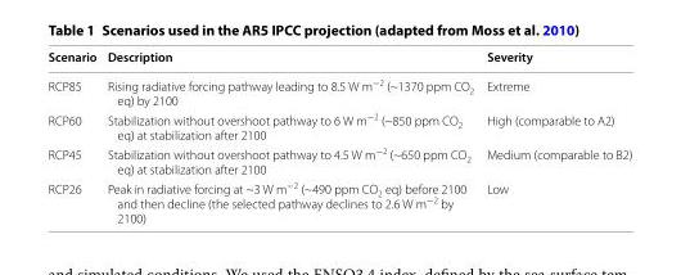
<table><thead><tr><td>Scenario</td><td>Description</td><td>Severity</td></tr></thead><tbody><tr><td>RCP85</td><td>Rising radiative forcing pathway leading to 8.5 W m<sup>−2</sup> (~1370 ppm CO<sub>2</sub> eq) by 2100</td><td>Extreme</td></tr><tr><td>RCP60</td><td>Stabilization without overshoot pathway to 6 W m<sup>−2</sup> (~850 ppm CO<sub>2</sub> eq) at stabilization after 2100</td><td>High (comparable to A2)</td></tr><tr><td>RCP45</td><td>Stabilization without overshoot pathway to 4.5 W m<sup>−2</sup> (~650 ppm CO<sub>2</sub> eq) at stabilization after 2100</td><td>Medium (comparable to B2)</td></tr><tr><td>RCP26</td><td>Peak in radiative forcing at ~3 W m<sup>−2</sup> (~490 ppm CO<sub>2</sub> eq) before 2100 and then decline (the selected pathway declines to 2.6 W m<sup>−2</sup> by 2100)</td><td>Low</td></tr></tbody></table>